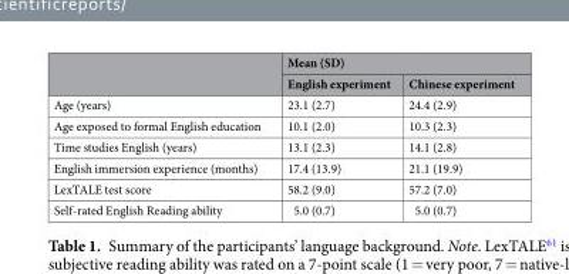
<table><thead><tr><td rowspan="2"></td><td colspan="2">Mean (SD)</td></tr><tr><td>English experiment</td><td>Chinese experiment</td></tr></thead><tbody><tr><td>Age (years)</td><td>23.1 (2.7)</td><td>24.4 (2.9)</td></tr><tr><td>Age exposed to formal English education</td><td>10.1 (2.0)</td><td>10.3 (2.3)</td></tr><tr><td>Time studies English (years)</td><td>13.1 (2.3)</td><td>14.1 (2.8)</td></tr><tr><td>English immersion experience (months)</td><td>17.4 (13.9)</td><td>21.1 (19.9)</td></tr><tr><td>LexTALE test score</td><td>58.2 (9.0)</td><td>57.2 (7.0)</td></tr><tr><td>Self-rated English Reading ability</td><td>5.0 (0.7)</td><td>5.0 (0.7)</td></tr></tbody></table>